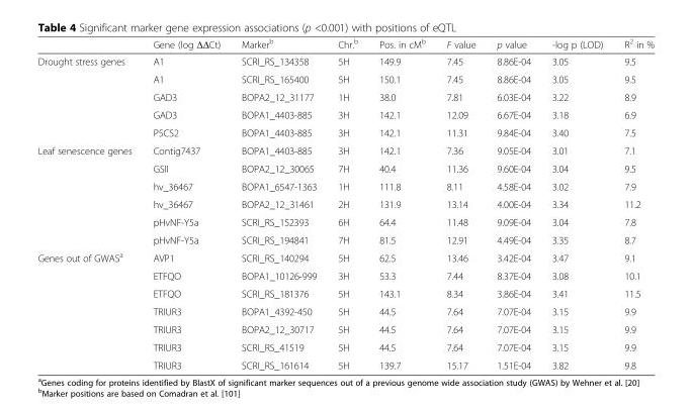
<table><thead><tr><td></td><td>Gene (log ΔΔCt)</td><td>Marker<sup>b</sup></td><td>Chr.<sup>b</sup></td><td>Pos. in cM<sup>b</sup></td><td>F value</td><td>p value</td><td>-log p (LOD)</td><td>R<sup>2</sup> in %</td></tr></thead><tbody><tr><td rowspan="5">Drought stress genes</td><td>A1</td><td>SCRI_RS_134358</td><td>5H</td><td>149.9</td><td>7.45</td><td>8.86E-04</td><td>3.05</td><td>9.5</td></tr><tr><td>A1</td><td>SCRI_RS_165400</td><td>5H</td><td>150.1</td><td>7.45</td><td>8.86E-04</td><td>3.05</td><td>9.5</td></tr><tr><td>GAD3</td><td>BOPA2_12_31177</td><td>1H</td><td>38.0</td><td>7.81</td><td>6.03E-04</td><td>3.22</td><td>8.9</td></tr><tr><td>GAD3</td><td>BOPA1_4403-885</td><td>3H</td><td>142.1</td><td>12.09</td><td>6.67E-04</td><td>3.18</td><td>6.9</td></tr><tr><td>P5CS2</td><td>BOPA1_4403-885</td><td>3H</td><td>142.1</td><td>11.31</td><td>9.84E-04</td><td>3.40</td><td>7.5</td></tr><tr><td rowspan="6">Leaf senescence genes</td><td>Contig7437</td><td>BOPA1_4403-885</td><td>3H</td><td>142.1</td><td>7.36</td><td>9.05E-04</td><td>3.01</td><td>7.1</td></tr><tr><td>GSII</td><td>BOPA2_12_30065</td><td>7H</td><td>40.4</td><td>11.36</td><td>9.60E-04</td><td>3.04</td><td>9.5</td></tr><tr><td>hv_36467</td><td>BOPA1_6547-1363</td><td>1H</td><td>111.8</td><td>8.11</td><td>4.58E-04</td><td>3.02</td><td>7.9</td></tr><tr><td>hv_36467</td><td>BOPA2_12_31461</td><td>2H</td><td>131.9</td><td>13.14</td><td>4.00E-04</td><td>3.34</td><td>11.2</td></tr><tr><td>pHvNF-Y5a</td><td>SCRI_RS_152393</td><td>6H</td><td>64.4</td><td>11.48</td><td>9.09E-04</td><td>3.04</td><td>7.8</td></tr><tr><td>pHvNF-Y5a</td><td>SCRI_RS_194841</td><td>7H</td><td>81.5</td><td>12.91</td><td>4.49E-04</td><td>3.35</td><td>8.7</td></tr><tr><td rowspan="7">Genes out of GWAS<sup>a</sup></td><td>AVP1</td><td>SCRI_RS_140294</td><td>5H</td><td>62.5</td><td>13.46</td><td>3.42E-04</td><td>3.47</td><td>9.1</td></tr><tr><td>ETFQO</td><td>BOPA1_10126-999</td><td>3H</td><td>53.3</td><td>7.44</td><td>8.37E-04</td><td>3.08</td><td>10.1</td></tr><tr><td>ETFQO</td><td>SCRI_RS_181376</td><td>5H</td><td>143.1</td><td>8.34</td><td>3.86E-04</td><td>3.41</td><td>11.5</td></tr><tr><td>TRIUR3</td><td>BOPA1_4392-450</td><td>5H</td><td>44.5</td><td>7.64</td><td>7.07E-04</td><td>3.15</td><td>9.9</td></tr><tr><td>TRIUR3</td><td>BOPA2_12_30717</td><td>5H</td><td>44.5</td><td>7.64</td><td>7.07E-04</td><td>3.15</td><td>9.9</td></tr><tr><td>TRIUR3</td><td>SCRI_RS_41519</td><td>5H</td><td>44.5</td><td>7.64</td><td>7.07E-04</td><td>3.15</td><td>9.9</td></tr><tr><td>TRIUR3</td><td>SCRI_RS_161614</td><td>5H</td><td>139.7</td><td>15.17</td><td>1.51E-04</td><td>3.82</td><td>9.8</td></tr></tbody></table>